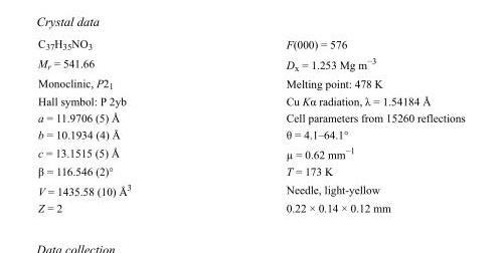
<table><tbody><tr><td>C<sub>37</sub>H<sub>35</sub>NO<sub>3</sub></td><td>F(000) = 576</td></tr><tr><td>M<sub>r</sub> = 541.66</td><td>D<sub>x</sub> = 1.253 Mg m<sup>−3</sup></td></tr><tr><td>Monoclinic, P2<sub>1</sub></td><td>Melting point: 478 K</td></tr><tr><td>Hall symbol: P 2yb</td><td>Cu Kα radiation, λ = 1.54184 Å</td></tr><tr><td>a = 11.9706 (5) Å</td><td>Cell parameters from 15260 reflections</td></tr><tr><td>b = 10.1934 (4) Å</td><td>θ = 4.1–64.1°</td></tr><tr><td>c = 13.1515 (5) Å</td><td>µ = 0.62 mm<sup>−1</sup></td></tr><tr><td>β = 116.546 (2)°</td><td>T = 173 K</td></tr><tr><td>V = 1435.58 (10) Å<sup>3</sup></td><td>Needle, light-yellow</td></tr><tr><td>Z = 2</td><td>0.22 × 0.14 × 0.12 mm</td></tr></tbody></table>